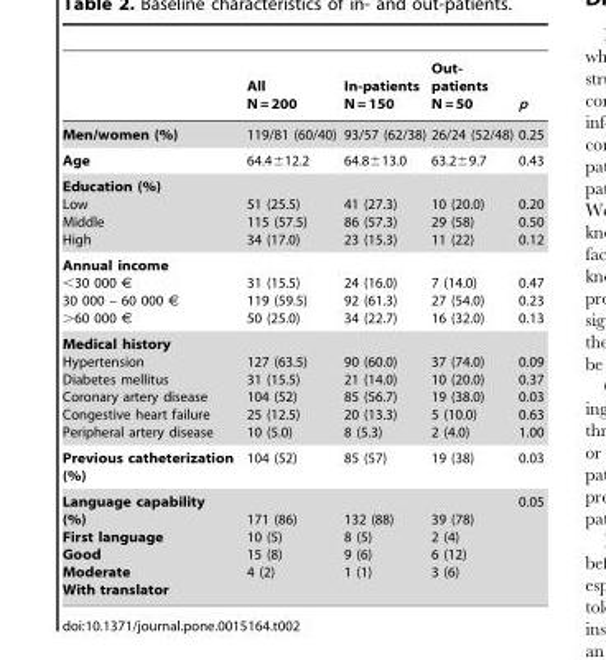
<table><thead><tr><td></td><td>All N = 200</td><td>In-patients N = 150</td><td>Out- patients N = 50</td><td>p</td></tr></thead><tbody><tr><td>Men/women (%)</td><td>119/81 (60/40)</td><td>93/57 (62/38)</td><td>26/24 (52/48)</td><td>0.25</td></tr><tr><td>Age</td><td>64.4±12.2</td><td>64.8±13.0</td><td>63.2±9.7</td><td>0.43</td></tr><tr><td>Education (%) Low Middle High</td><td>51 (25.5) 115 (57.5) 34 (17.0)</td><td>41 (27.3) 86 (57.3) 23 (15.3)</td><td>10 (20.0) 29 (58) 11 (22)</td><td>0.20 0.50 0.12</td></tr><tr><td>Annual income &lt;30 000 € 30 000 – 60 000 € &gt;60 000 €</td><td>31 (15.5) 119 (59.5) 50 (25.0)</td><td>24 (16.0) 92 (61.3) 34 (22.7)</td><td>7 (14.0) 27 (54.0) 16 (32.0)</td><td>0.47 0.23 0.13</td></tr><tr><td>Medical history Hypertension Diabetes mellitus Coronary artery disease Congestive heart failure Peripheral artery disease</td><td>127 (63.5) 31 (15.5) 104 (52) 25 (12.5) 10 (5.0)</td><td>90 (60.0) 21 (14.0) 85 (56.7) 20 (13.3) 8 (5.3)</td><td>37 (74.0) 10 (20.0) 19 (38.0) 5 (10.0) 2 (4.0)</td><td>0.09 0.37 0.03 0.63 1.00</td></tr><tr><td>Previous catheterization (%)</td><td>104 (52)</td><td>85 (57)</td><td>19 (38)</td><td>0.03</td></tr><tr><td>Language capability (%) First language Good Moderate With translator</td><td>171 (86) 10 (5) 15 (8) 4 (2)</td><td>132 (88) 8 (5) 9 (6) 1 (1)</td><td>39 (78) 2 (4) 6 (12) 3 (6)</td><td>0.05</td></tr></tbody></table>